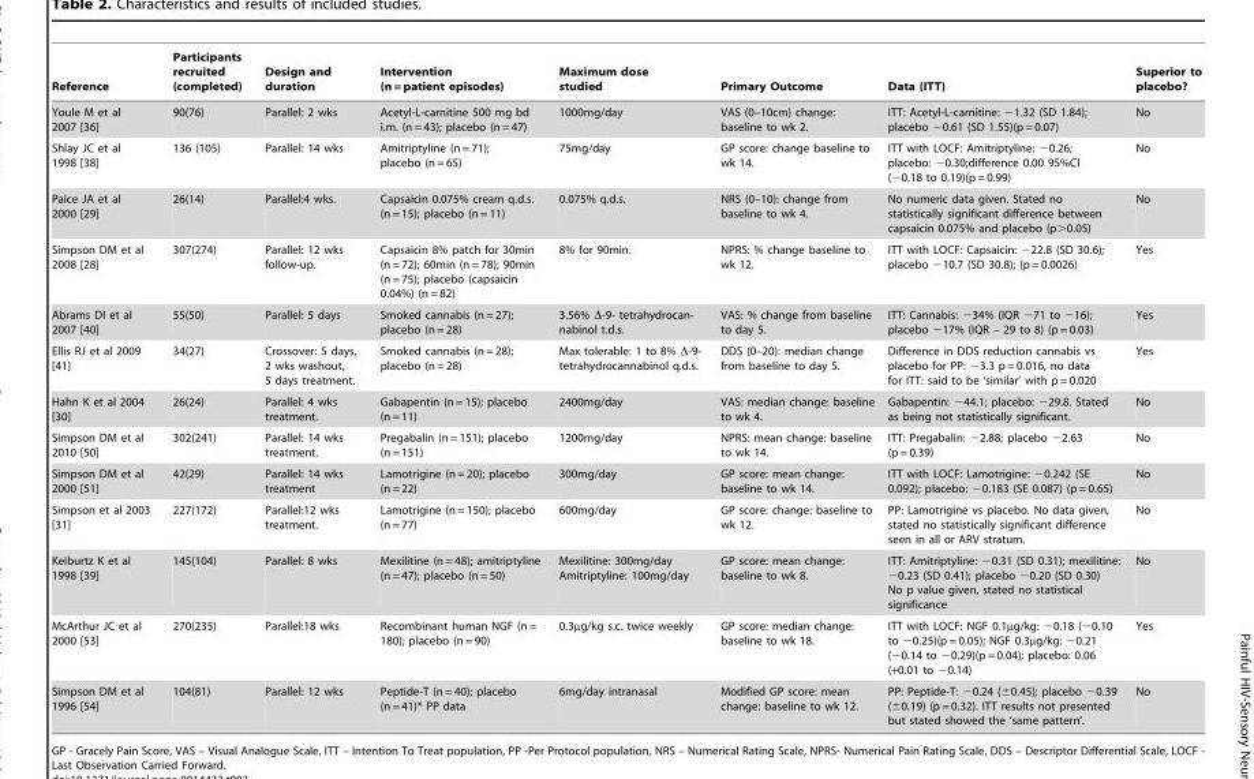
<table><thead><tr><td>Reference</td><td>Participants recruited (completed)</td><td>Design and duration</td><td>Intervention (n = patient episodes)</td><td>Maximum dose studied</td><td>Primary Outcome</td><td>Data (ITT)</td><td>Superior to placebo?</td></tr></thead><tbody><tr><td>Youle M et al 2007 [36]</td><td>90(76)</td><td>Parallel: 2 wks</td><td>Acetyl-L-carnitine 500 mg bd i.m. (n = 43); placebo (n = 47)</td><td>1000mg/day</td><td>VAS (0–10cm) change: baseline to wk 2.</td><td>ITT: Acetyl-L-carnitine: −1.32 (SD 1.84); placebo −0.61 (SD 1.55)(p = 0.07)</td><td>No</td></tr><tr><td>Shlay JC et al 1998 [38]</td><td>136 (105)</td><td>Parallel: 14 wks</td><td>Amitriptyline (n = 71); placebo (n = 65)</td><td>75mg/day</td><td>GP score: change baseline to wk 14.</td><td>ITT with LOCF: Amitriptyline: −0.26; placebo: −0.30;difference 0.00 95%CI (−0.18 to 0.19)(p = 0.99)</td><td>No</td></tr><tr><td>Paice JA et al 2000 [29]</td><td>26(14)</td><td>Parallel:4 wks.</td><td>Capsaicin 0.075% cream q.d.s. (n = 15); placebo (n = 11)</td><td>0.075% q.d.s.</td><td>NRS (0–10): change from baseline to wk 4.</td><td>No numeric data given. Stated no statistically significant difference between capsaicin 0.075% and placebo (p&gt;0.05)</td><td>No</td></tr><tr><td>Simpson DM et al 2008 [28]</td><td>307(274)</td><td>Parallel: 12 wks follow-up.</td><td>Capsaicin 8% patch for 30min (n = 72); 60min (n = 78); 90min (n = 75); placebo (capsaicin 0.04%) (n = 82)</td><td>8% for 90min.</td><td>NPRS: % change baseline to wk 12.</td><td>ITT with LOCF: Capsaicin: −22.8 (SD 30.6); placebo −10.7 (SD 30.8); (p = 0.0026)</td><td>Yes</td></tr><tr><td>Abrams DI et al 2007 [40]</td><td>55(50)</td><td>Parallel: 5 days</td><td>Smoked cannabis (n = 27); placebo (n = 28)</td><td>3.56% D-9- tetrahydrocan- nabinol t.d.s.</td><td>VAS: % change from baseline to day 5.</td><td>ITT: Cannabis: −34% (IQR −71 to −16); placebo −17% (IQR – 29 to 8) (p = 0.03)</td><td>Yes</td></tr><tr><td>Ellis RJ et al 2009 [41]</td><td>34(27)</td><td>Crossover: 5 days, 2 wks washout, 5 days treatment.</td><td>Smoked cannabis (n = 28); placebo (n = 28)</td><td>Max tolerable: 1 to 8% Δ-9- tetrahydrocannabinol q.d.s.</td><td>DDS (0–20): median change from baseline to day 5.</td><td>Difference in DDS reduction cannabis vs placebo for PP: −3.3 p = 0.016, no data for ITT: said to be ‘similar’ with p = 0.020</td><td>Yes</td></tr><tr><td>Hahn K et al 2004 [30]</td><td>26(24)</td><td>Parallel: 4 wks treatment.</td><td>Gabapentin (n = 15); placebo (n = 11)</td><td>2400mg/day</td><td>VAS: median change: baseline to wk 4.</td><td>Gabapentin: −44.1; placebo: −29.8. Stated as being not statistically significant.</td><td>No</td></tr><tr><td>Simpson DM et al 2010 [50]</td><td>302(241)</td><td>Parallel: 14 wks treatment.</td><td>Pregabalin (n = 151); placebo (n = 151)</td><td>1200mg/day</td><td>NPRS: mean change: baseline to wk 14.</td><td>ITT: Pregabalin: −2.88; placebo −2.63 (p = 0.39)</td><td>No</td></tr><tr><td>Simpson DM et al 2000 [51]</td><td>42(29)</td><td>Parallel: 14 wks treatment</td><td>Lamotrigine (n = 20); placebo (n = 22)</td><td>300mg/day</td><td>GP score: mean change: baseline to wk 14.</td><td>ITT with LOCF: Lamotrigine: −0.242 (SE 0.092); placebo: −0.183 (SE 0.087) (p = 0.65)</td><td>No</td></tr><tr><td>Simpson et al 2003 [31]</td><td>227(172)</td><td>Parallel:12 wks treatment.</td><td>Lamotrigine (n = 150); placebo (n = 77)</td><td>600mg/day</td><td>GP score: change: baseline to wk 12.</td><td>PP: Lamotrigine vs placebo. No data given, stated no statistically significant difference seen in all or ARV stratum.</td><td>No</td></tr><tr><td>Keiburtz K et al 1998 [39]</td><td>145(104)</td><td>Parallel: 8 wks</td><td>Mexilitine (n = 48); amitriptyline (n = 47); placebo (n = 50)</td><td>Mexilitine: 300mg/day Amitriptyline: 100mg/day</td><td>GP score: mean change: baseline to wk 8.</td><td>ITT: Amitriptyline: −0.31 (SD 0.31); mexilitine: −0.23 (SD 0.41); placebo −0.20 (SD 0.30) No p value given, stated no statistical significance</td><td>No</td></tr><tr><td>McArthur JC et al 2000 [53]</td><td>270(235)</td><td>Parallel:18 wks</td><td>Recombinant human NGF (n = 180); placebo (n = 90)</td><td>0.3µg/kg s.c. twice weekly</td><td>GP score: median change: baseline to wk 18.</td><td>ITT with LOCF: NGF 0.1µg/kg: −0.18 (−0.10 to −0.25)(p = 0.05); NGF 0.3µg/kg: −0.21 (−0.14 to −0.29)(p = 0.04); placebo: 0.06 (+0.01 to −0.14)</td><td>Yes</td></tr><tr><td>Simpson DM et al 1996 [54]</td><td>104(81)</td><td>Parallel: 12 wks</td><td>Peptide-T (n = 40); placebo (n = 41)* PP data</td><td>6mg/day intranasal</td><td>Modified GP score: mean change: baseline to wk 12.</td><td>PP: Peptide-T: −0.24 (±0.45); placebo −0.39 (±0.19) (p = 0.32). ITT results not presented but stated showed the ‘same pattern’.</td><td>No</td></tr></tbody></table>